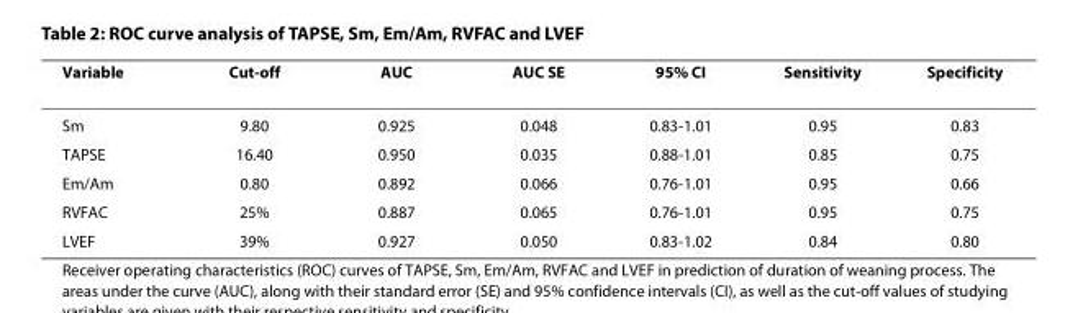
<table><thead><tr><td>Variable</td><td>Cut-off</td><td>AUC</td><td>AUC SE</td><td>95% CI</td><td>Sensitivity</td><td>Specificity</td></tr></thead><tbody><tr><td>Sm</td><td>9.80</td><td>0.925</td><td>0.048</td><td>0.83-1.01</td><td>0.95</td><td>0.83</td></tr><tr><td>TAPSE</td><td>16.40</td><td>0.950</td><td>0.035</td><td>0.88-1.01</td><td>0.85</td><td>0.75</td></tr><tr><td>Em/Am</td><td>0.80</td><td>0.892</td><td>0.066</td><td>0.76-1.01</td><td>0.95</td><td>0.66</td></tr><tr><td>RVFAC</td><td>25%</td><td>0.887</td><td>0.065</td><td>0.76-1.01</td><td>0.95</td><td>0.75</td></tr><tr><td>LVEF</td><td>39%</td><td>0.927</td><td>0.050</td><td>0.83-1.02</td><td>0.84</td><td>0.80</td></tr></tbody></table>